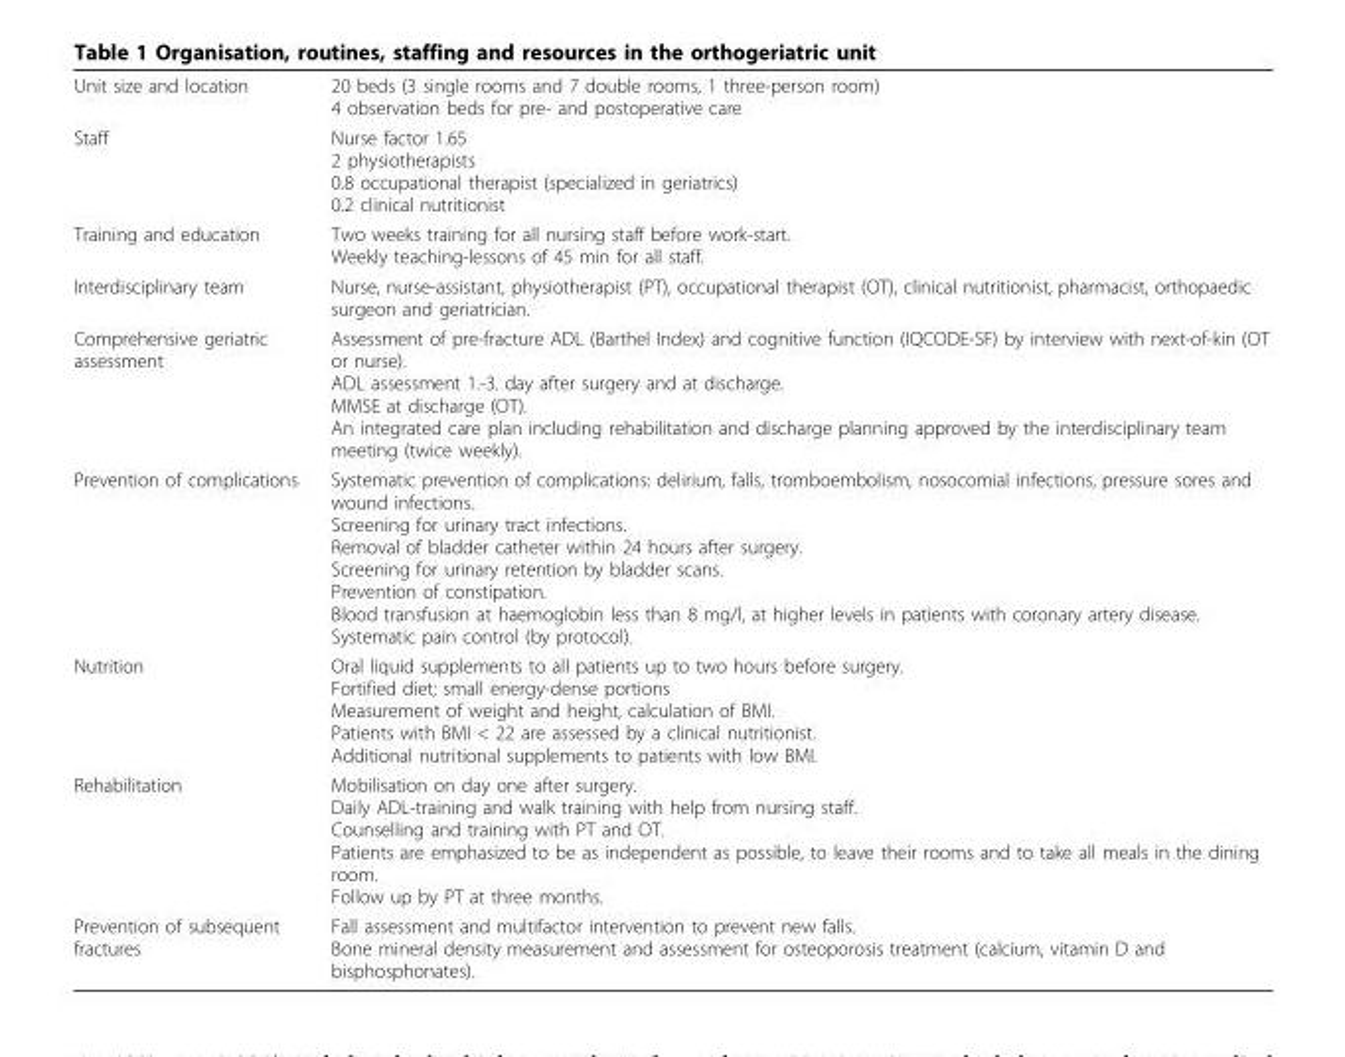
<table><tbody><tr><td>Unit size and location</td><td>20 beds (3 single rooms and 7 double rooms, 1 three-person room) 4 observation beds for pre- and postoperative care</td></tr><tr><td>Staff</td><td>Nurse factor 1.65 2 physiotherapists 0.8 occupational therapist (specialized in geriatrics) 0.2 clinical nutritionist</td></tr><tr><td>Training and education</td><td>Two weeks training for all nursing staff before work-start. Weekly teaching-lessons of 45 min for all staff.</td></tr><tr><td>Interdisciplinary team</td><td>Nurse, nurse-assistant, physiotherapist (PT), occupational therapist (OT), clinical nutritionist, pharmacist, orthopaedic surgeon and geriatrician.</td></tr><tr><td>Comprehensive geriatric assessment</td><td>Assessment of pre-fracture ADL (Barthel Index) and cognitive function (IQCODE-SF) by interview with next-of-kin (OT or nurse). ADL assessment 1.-3. day after surgery and at discharge. MMSE at discharge (OT). An integrated care plan including rehabilitation and discharge planning approved by the interdisciplinary team meeting (twice weekly).</td></tr><tr><td>Prevention of complications</td><td>Systematic prevention of complications: delirium, falls, tromboembolism, nosocomial infections, pressure sores and wound infections. Screening for urinary tract infections. Removal of bladder catheter within 24 hours after surgery. Screening for urinary retention by bladder scans. Prevention of constipation. Blood transfusion at haemoglobin less than 8 mg/l, at higher levels in patients with coronary artery disease. Systematic pain control (by protocol).</td></tr><tr><td>Nutrition</td><td>Oral liquid supplements to all patients up to two hours before surgery. Fortified diet; small energy-dense portions Measurement of weight and height, calculation of BMI. Patients with BMI &lt; 22 are assessed by a clinical nutritionist. Additional nutritional supplements to patients with low BMI.</td></tr><tr><td>Rehabilitation</td><td>Mobilisation on day one after surgery. Daily ADL-training and walk training with help from nursing staff. Counselling and training with PT and OT. Patients are emphasized to be as independent as possible, to leave their rooms and to take all meals in the dining room. Follow up by PT at three months.</td></tr><tr><td>Prevention of subsequent fractures</td><td>Fall assessment and multifactor intervention to prevent new falls. Bone mineral density measurement and assessment for osteoporosis treatment (calcium, vitamin D and bisphosphonates).</td></tr></tbody></table>